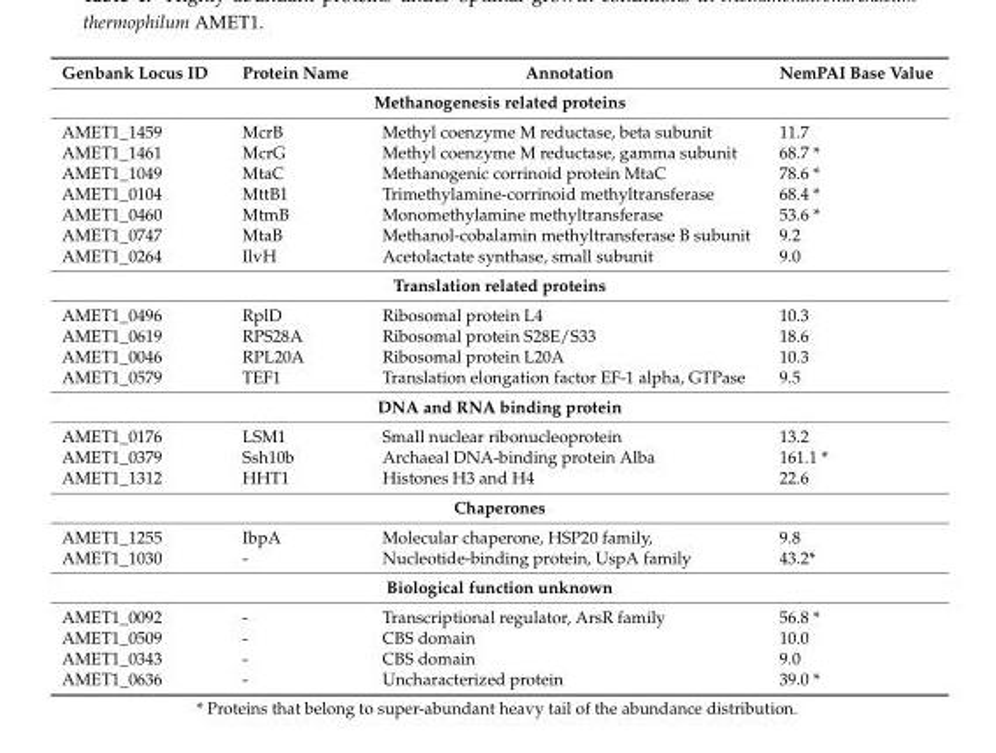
<table><thead><tr><td>Genbank Locus ID</td><td>Protein Name</td><td>Annotation</td><td>NemPAI Base Value</td></tr></thead><tbody><tr><td colspan="4">Methanogenesis related proteins</td></tr><tr><td>AMET1_1459</td><td>McrB</td><td>Methyl coenzyme M reductase, beta subunit</td><td>11.7</td></tr><tr><td>AMET1_1461</td><td>McrG</td><td>Methyl coenzyme M reductase, gamma subunit</td><td>68.7 *</td></tr><tr><td>AMET1_1049</td><td>MtaC</td><td>Methanogenic corrinoid protein MtaC</td><td>78.6 *</td></tr><tr><td>AMET1_0104</td><td>MttB1</td><td>Trimethylamine-corrinoid methyltransferase</td><td>68.4 *</td></tr><tr><td>AMET1_0460</td><td>MtmB</td><td>Monomethylamine methyltransferase</td><td>53.6 *</td></tr><tr><td>AMET1_0747</td><td>MtaB</td><td>Methanol-cobalamin methyltransferase B subunit</td><td>9.2</td></tr><tr><td>AMET1_0264</td><td>IlvH</td><td>Acetolactate synthase, small subunit</td><td>9.0</td></tr><tr><td colspan="4">Translation related proteins</td></tr><tr><td>AMET1_0496</td><td>RplD</td><td>Ribosomal protein L4</td><td>10.3</td></tr><tr><td>AMET1_0619</td><td>RPS28A</td><td>Ribosomal protein S28E/S33</td><td>18.6</td></tr><tr><td>AMET1_0046</td><td>RPL20A</td><td>Ribosomal protein L20A</td><td>10.3</td></tr><tr><td>AMET1_0579</td><td>TEF1</td><td>Translation elongation factor EF-1 alpha, GTPase</td><td>9.5</td></tr><tr><td colspan="4">DNA and RNA binding protein</td></tr><tr><td>AMET1_0176</td><td>LSM1</td><td>Small nuclear ribonucleoprotein</td><td>13.2</td></tr><tr><td>AMET1_0379</td><td>Ssh10b</td><td>Archaeal DNA-binding protein Alba</td><td>161.1 *</td></tr><tr><td>AMET1_1312</td><td>HHT1</td><td>Histones H3 and H4</td><td>22.6</td></tr><tr><td colspan="4">Chaperones</td></tr><tr><td>AMET1_1255</td><td>IbpA</td><td>Molecular chaperone, HSP20 family,</td><td>9.8</td></tr><tr><td>AMET1_1030</td><td>-</td><td>Nucleotide-binding protein, UspA family</td><td>43.2*</td></tr><tr><td colspan="4">Biological function unknown</td></tr><tr><td>AMET1_0092</td><td>-</td><td>Transcriptional regulator, ArsR family</td><td>56.8 *</td></tr><tr><td>AMET1_0509</td><td>-</td><td>CBS domain</td><td>10.0</td></tr><tr><td>AMET1_0343</td><td>-</td><td>CBS domain</td><td>9.0</td></tr><tr><td>AMET1_0636</td><td>-</td><td>Uncharacterized protein</td><td>39.0 *</td></tr></tbody></table>